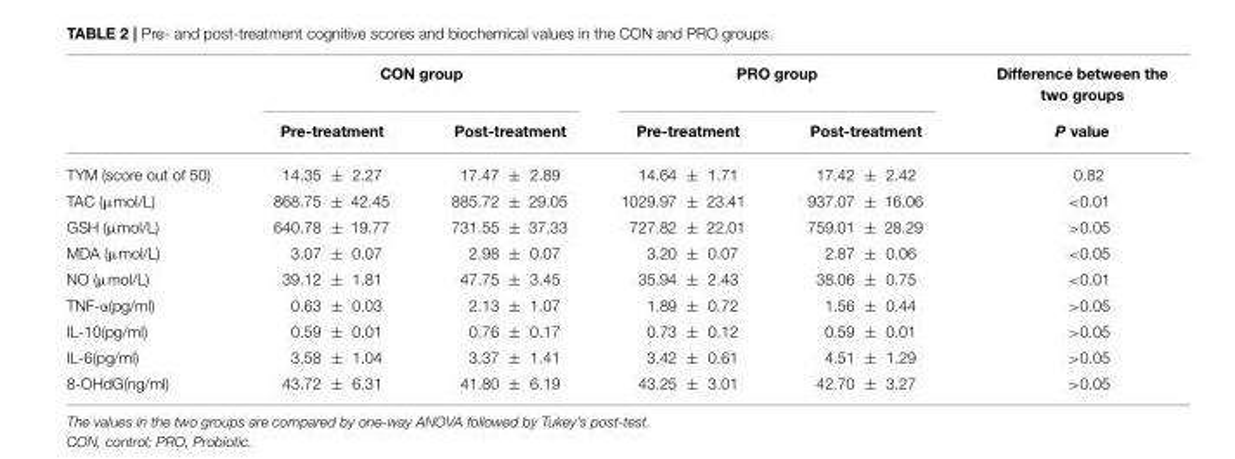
<table><thead><tr><td rowspan="2"></td><td colspan="2">CON group</td><td colspan="2">PRO group</td><td rowspan="2">Difference between the two groups P value</td></tr><tr><td>Pre-treatment</td><td>Post-treatment</td><td>Pre-treatment</td><td>Post-treatment</td></tr></thead><tbody><tr><td>TYM (score out of 50)</td><td>14.35 ± 2.27</td><td>17.47 ± 2.89</td><td>14.64 ± 1.71</td><td>17.42 ± 2.42</td><td>0.82</td></tr><tr><td>TAC (µmol/L)</td><td>868.75 ± 42.45</td><td>885.72 ± 29.05</td><td>1029.97 ± 23.41</td><td>937.07 ± 16.06</td><td>&lt;0.01</td></tr><tr><td>GSH (µmol/L)</td><td>640.78 ± 19.77</td><td>731.55 ± 37.33</td><td>727.82 ± 22.01</td><td>759.01 ± 28.29</td><td>&gt;0.05</td></tr><tr><td>MDA (µmol/L)</td><td>3.07 ± 0.07</td><td>2.98 ± 0.07</td><td>3.20 ± 0.07</td><td>2.87 ± 0.06</td><td>&lt;0.05</td></tr><tr><td>NO (µmol/L)</td><td>39.12 ± 1.81</td><td>47.75 ± 3.45</td><td>35.94 ± 2.43</td><td>38.06 ± 0.75</td><td>&lt;0.01</td></tr><tr><td>TNF-α(pg/ml)</td><td>0.63 ± 0.03</td><td>2.13 ± 1.07</td><td>1.89 ± 0.72</td><td>1.56 ± 0.44</td><td>&gt;0.05</td></tr><tr><td>IL-10(pg/ml)</td><td>0.59 ± 0.01</td><td>0.76 ± 0.17</td><td>0.73 ± 0.12</td><td>0.59 ± 0.01</td><td>&gt;0.05</td></tr><tr><td>IL-6(pg/ml)</td><td>3.58 ± 1.04</td><td>3.37 ± 1.41</td><td>3.42 ± 0.61</td><td>4.51 ± 1.29</td><td>&gt;0.05</td></tr><tr><td>8-OHdG(ng/ml)</td><td>43.72 ± 6.31</td><td>41.80 ± 6.19</td><td>43.25 ± 3.01</td><td>42.70 ± 3.27</td><td>&gt;0.05</td></tr></tbody></table>